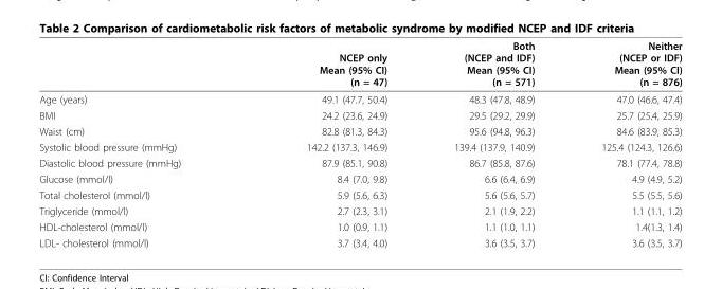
<table><thead><tr><td></td><td>NCEP only Mean (95% CI) (n = 47)</td><td>Both (NCEP and IDF) Mean (95% CI) (n = 571)</td><td>Neither (NCEP or IDF) Mean (95% CI) (n = 876)</td></tr></thead><tbody><tr><td>Age (years)</td><td>49.1 (47.7, 50.4)</td><td>48.3 (47.8, 48.9)</td><td>47.0 (46.6, 47.4)</td></tr><tr><td>BMI</td><td>24.2 (23.6, 24.9)</td><td>29.5 (29.2, 29.9)</td><td>25.7 (25.4, 25.9)</td></tr><tr><td>Waist (cm)</td><td>82.8 (81.3, 84.3)</td><td>95.6 (94.8, 96.3)</td><td>84.6 (83.9, 85.3)</td></tr><tr><td>Systolic blood pressure (mmHg)</td><td>142.2 (137.3, 146.9)</td><td>139.4 (137.9, 140.9)</td><td>125.4 (124.3, 126.6)</td></tr><tr><td>Diastolic blood pressure (mmHg)</td><td>87.9 (85.1, 90.8)</td><td>86.7 (85.8, 87.6)</td><td>78.1 (77.4, 78.8)</td></tr><tr><td>Glucose (mmol/l)</td><td>8.4 (7.0, 9.8)</td><td>6.6 (6.4, 6.9)</td><td>4.9 (4.9, 5.2)</td></tr><tr><td>Total cholesterol (mmol/l)</td><td>5.9 (5.6, 6.3)</td><td>5.6 (5.6, 5.7)</td><td>5.5 (5.5, 5.6)</td></tr><tr><td>Triglyceride (mmol/l)</td><td>2.7 (2.3, 3.1)</td><td>2.1 (1.9, 2.2)</td><td>1.1 (1.1, 1.2)</td></tr><tr><td>HDL-cholesterol (mmol/l)</td><td>1.0 (0.9, 1.1)</td><td>1.1 (1.0, 1.1)</td><td>1.4(1.3, 1.4)</td></tr><tr><td>LDL- cholesterol (mmol/l)</td><td>3.7 (3.4, 4.0)</td><td>3.6 (3.5, 3.7)</td><td>3.6 (3.5, 3.7)</td></tr></tbody></table>